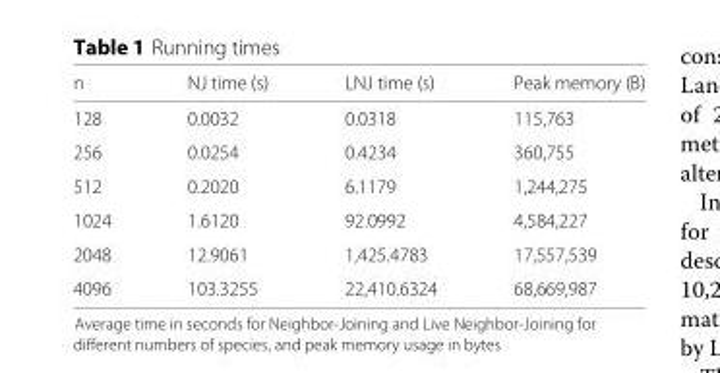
<table><thead><tr><td>n</td><td>NJ time (s)</td><td>LNJ time (s)</td><td>Peak memory (B)</td></tr></thead><tbody><tr><td>128</td><td>0.0032</td><td>0.0318</td><td>115,763</td></tr><tr><td>256</td><td>0.0254</td><td>0.4234</td><td>360,755</td></tr><tr><td>512</td><td>0.2020</td><td>6.1179</td><td>1,244,275</td></tr><tr><td>1024</td><td>1.6120</td><td>92.0992</td><td>4,584,227</td></tr><tr><td>2048</td><td>12.9061</td><td>1,425.4783</td><td>17,557,539</td></tr><tr><td>4096</td><td>103.3255</td><td>22,410.6324</td><td>68,669,987</td></tr></tbody></table>